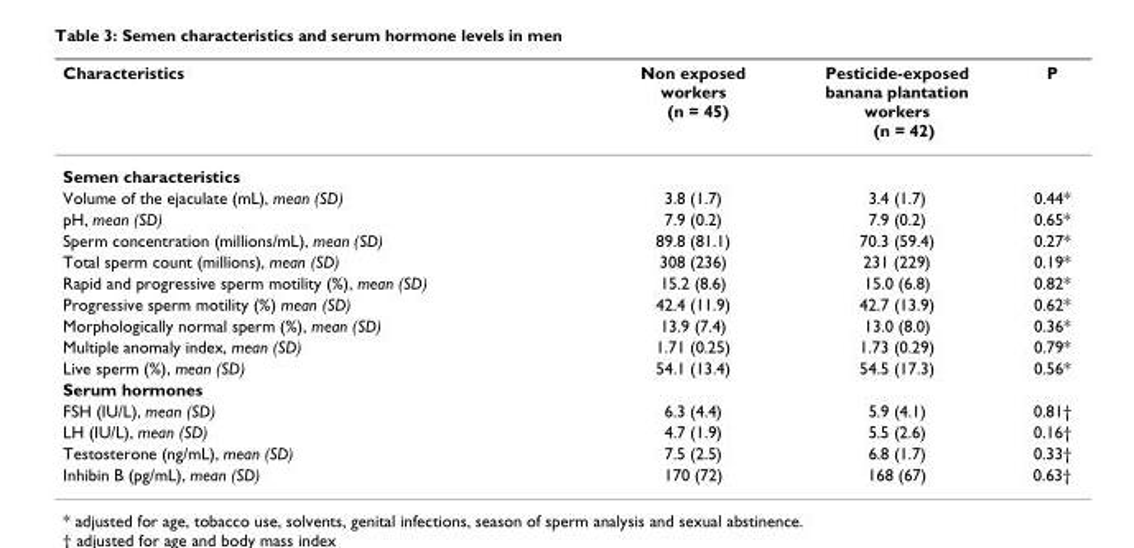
<table><thead><tr><td>Characteristics</td><td>Non exposed workers (n = 45)</td><td>Pesticide-exposed banana plantation workers (n = 42)</td><td>P</td></tr></thead><tbody><tr><td colspan="4">Semen characteristics</td></tr><tr><td>Volume of the ejaculate (mL), mean (SD)</td><td>3.8 (1.7)</td><td>3.4 (1.7)</td><td>0.44*</td></tr><tr><td>pH, mean (SD)</td><td>7.9 (0.2)</td><td>7.9 (0.2)</td><td>0.65*</td></tr><tr><td>Sperm concentration (millions/mL), mean (SD)</td><td>89.8 (81.1)</td><td>70.3 (59.4)</td><td>0.27*</td></tr><tr><td>Total sperm count (millions), mean (SD)</td><td>308 (236)</td><td>231 (229)</td><td>0.19*</td></tr><tr><td>Rapid and progressive sperm motility (%), mean (SD)</td><td>15.2 (8.6)</td><td>15.0 (6.8)</td><td>0.82*</td></tr><tr><td>Progressive sperm motility (%) mean (SD)</td><td>42.4 (11.9)</td><td>42.7 (13.9)</td><td>0.62*</td></tr><tr><td>Morphologically normal sperm (%), mean (SD)</td><td>13.9 (7.4)</td><td>13.0 (8.0)</td><td>0.36*</td></tr><tr><td>Multiple anomaly index, mean (SD)</td><td>1.71 (0.25)</td><td>1.73 (0.29)</td><td>0.79*</td></tr><tr><td>Live sperm (%), mean (SD)</td><td>54.1 (13.4)</td><td>54.5 (17.3)</td><td>0.56*</td></tr><tr><td colspan="4">Serum hormones</td></tr><tr><td>FSH (IU/L), mean (SD)</td><td>6.3 (4.4)</td><td>5.9 (4.1)</td><td>0.81†</td></tr><tr><td>LH (IU/L), mean (SD)</td><td>4.7 (1.9)</td><td>5.5 (2.6)</td><td>0.16†</td></tr><tr><td>Testosterone (ng/mL), mean (SD)</td><td>7.5 (2.5)</td><td>6.8 (1.7)</td><td>0.33†</td></tr><tr><td>Inhibin B (pg/mL), mean (SD)</td><td>170 (72)</td><td>168 (67)</td><td>0.63†</td></tr></tbody></table>